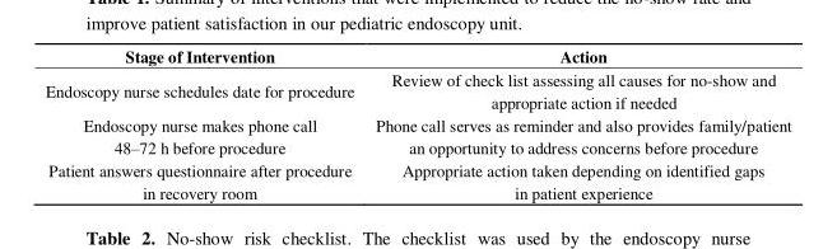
<table><thead><tr><td>Stage of Intervention</td><td>Action</td></tr></thead><tbody><tr><td>Endoscopy nurse schedules date for procedure</td><td>Review of check list assessing all causes for no-show and appropriate action if needed</td></tr><tr><td>Endoscopy nurse makes phone call 48–72 h before procedure</td><td>Phone call serves as reminder and also provides family/patient an opportunity to address concerns before procedure</td></tr><tr><td>Patient answers questionnaire after procedure in recovery room</td><td>Appropriate action taken depending on identified gaps in patient experience</td></tr></tbody></table>